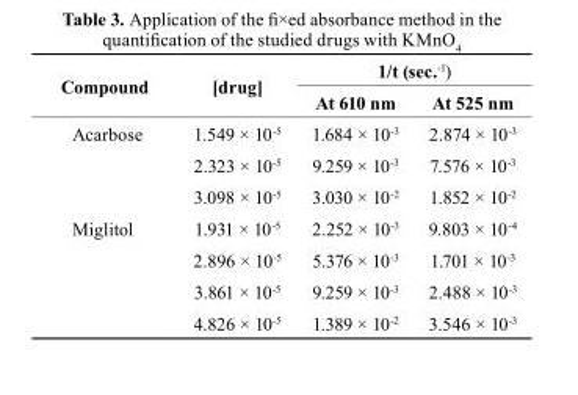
<table><thead><tr><td rowspan="2">compound</td><td rowspan="2">[drug]</td><td colspan="2">1/t (sec.<sup>-1</sup>)</td></tr><tr><td>At 610 nm</td><td>At 525 nm</td></tr></thead><tbody><tr><td rowspan="3">Acarbose</td><td>1.549 × 10<sup>-5</sup></td><td>1.684 × 10<sup>-3</sup></td><td>2.874 × 10<sup>-3</sup></td></tr><tr><td>2.323 × 10<sup>-5</sup></td><td>9.259 × 10<sup>-3</sup></td><td>7.576 × 10<sup>-3</sup></td></tr><tr><td>3.098 × 10<sup>-5</sup></td><td>3.030 × 10<sup>-2</sup></td><td>1.852 × 10<sup>-2</sup></td></tr><tr><td rowspan="4">Miglitol</td><td>1.931 × 10<sup>-5</sup></td><td>2.252 × 10<sup>-3</sup></td><td>9.803 × 10<sup>-4</sup></td></tr><tr><td>2.896 × 10<sup>-5</sup></td><td>5.376 × 10<sup>-3</sup></td><td>1.701 × 10<sup>-3</sup></td></tr><tr><td>3.861 × 10<sup>-5</sup></td><td>9.259 × 10<sup>-3</sup></td><td>2.488 × 10<sup>-3</sup></td></tr><tr><td>4.826 × 10<sup>-5</sup></td><td>1.389 × 10<sup>-2</sup></td><td>3.546 × 10<sup>-3</sup></td></tr></tbody></table>